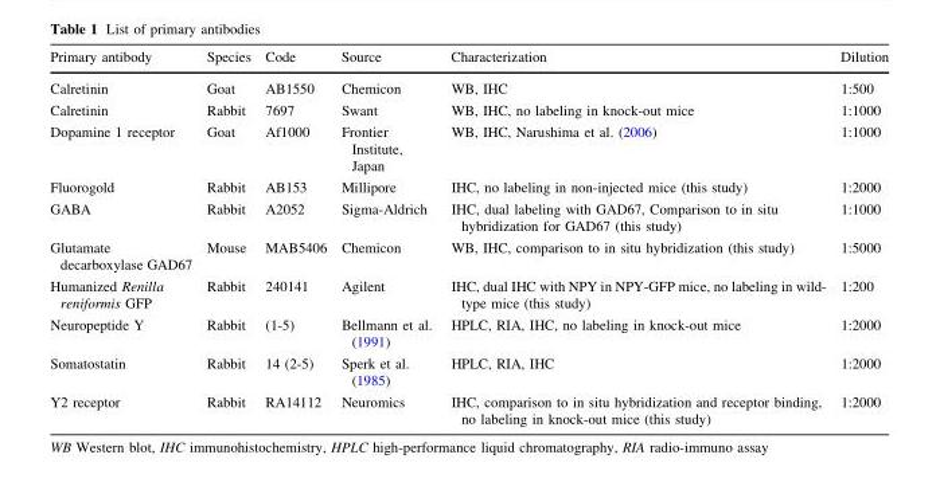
<table><thead><tr><td>Primary antibody</td><td>Species</td><td>Code</td><td>Source</td><td>Characterization</td><td>Dilution</td></tr></thead><tbody><tr><td>Calretinin</td><td>Goat</td><td>AB1550</td><td>Chemicon</td><td>WB, IHC</td><td>1:500</td></tr><tr><td>Calretinin</td><td>Rabbit</td><td>7697</td><td>Swant</td><td>WB, IHC, no labeling in knock-out mice</td><td>1:1000</td></tr><tr><td>Dopamine 1 receptor</td><td>Goat</td><td>Af1000</td><td>Frontier Institute, Japan</td><td>WB, IHC, Narushima et al. (2006)</td><td>1:1000</td></tr><tr><td>Fluorogold</td><td>Rabbit</td><td>AB153</td><td>Millipore</td><td>IHC, no labeling in non-injected mice (this study)</td><td>1:2000</td></tr><tr><td>GABA</td><td>Rabbit</td><td>A2052</td><td>Sigma-Aldrich</td><td>IHC, dual labeling with GAD67, Comparison to in situ hybridization for GAD67 (this study)</td><td>1:1000</td></tr><tr><td>Glutamate decarboxylase GAD67</td><td>Mouse</td><td>MAB5406</td><td>Chemicon</td><td>WB, IHC, comparison to in situ hybridization (this study)</td><td>1:5000</td></tr><tr><td>Humanized Renilla reniformis GFP</td><td>Rabbit</td><td>240141</td><td>Agilent</td><td>IHC, dual IHC with NPY in NPY-GFP mice, no labeling in wild- type mice (this study)</td><td>1:200</td></tr><tr><td>Neuropeptide Y</td><td>Rabbit</td><td>(1-5)</td><td>Bellmann et al. (1991)</td><td>HPLC, RIA, IHC, no labeling in knock-out mice</td><td>1:2000</td></tr><tr><td>Somatostatin</td><td>Rabbit</td><td>14 (2-5)</td><td>Sperk et al. (1985)</td><td>HPLC, RIA, IHC</td><td>1:2000</td></tr><tr><td>Y2 receptor</td><td>Rabbit</td><td>RA14112</td><td>Neuromics</td><td>IHC, comparison to in situ hybridization and receptor binding, no labeling in knock-out mice (this study)</td><td>1:2000</td></tr></tbody></table>